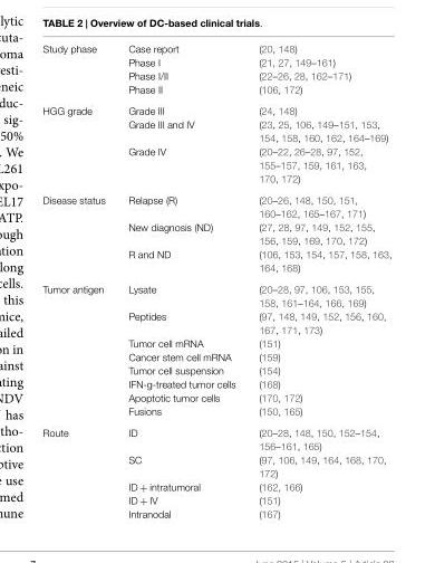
<table><tbody><tr><td rowspan="4">Study phase</td><td>Case report</td><td>(20, 148)</td></tr><tr><td>Phase I</td><td>(21, 27, 149–161)</td></tr><tr><td>Phase I/II</td><td>(22–26, 28, 162–171)</td></tr><tr><td>Phase II</td><td>(106, 172)</td></tr><tr><td rowspan="3">HGG grade</td><td>Grade III</td><td>(24, 148)</td></tr><tr><td>Grade III and IV</td><td>(23, 25, 106, 149–151, 153, 154, 158, 160, 162, 164–169)</td></tr><tr><td>Grade IV</td><td>(20–22, 26–28, 97, 152, 155–157, 159, 161, 163, 170, 172)</td></tr><tr><td rowspan="3">Disease status</td><td>Relapse (R)</td><td>(20–26, 148, 150, 151, 160–162, 165–167, 171)</td></tr><tr><td>New diagnosis (ND)</td><td>(27, 28, 97, 149, 152, 155, 156, 159, 169, 170, 172)</td></tr><tr><td>R and ND</td><td>(106, 153, 154, 157, 158, 163, 164, 168)</td></tr><tr><td rowspan="8">Tumor antigen</td><td>Lysate</td><td>(20–28, 97, 106, 153, 155, 158, 161–164, 166, 169)</td></tr><tr><td>Peptides</td><td>(97, 148, 149, 152, 156, 160, 167, 171, 173)</td></tr><tr><td>Tumor cell mRNA</td><td>(151)</td></tr><tr><td>Cancer stem cell mRNA</td><td>(159)</td></tr><tr><td>Tumor cell suspension</td><td>(154)</td></tr><tr><td>IFN-g-treated tumor cells</td><td>(168)</td></tr><tr><td>Apoptotic tumor cells</td><td>(170, 172)</td></tr><tr><td>Fusions</td><td>(150, 165)</td></tr><tr><td rowspan="5">Route</td><td>ID</td><td>(20–28, 148, 150, 152–154, 156–161, 165)</td></tr><tr><td>SC</td><td>(97, 106, 149, 164, 168, 170, 172)</td></tr><tr><td>ID + intratumoral</td><td>(162, 166)</td></tr><tr><td>ID + IV</td><td>(151)</td></tr><tr><td>Intranodal</td><td>(167)</td></tr></tbody></table>